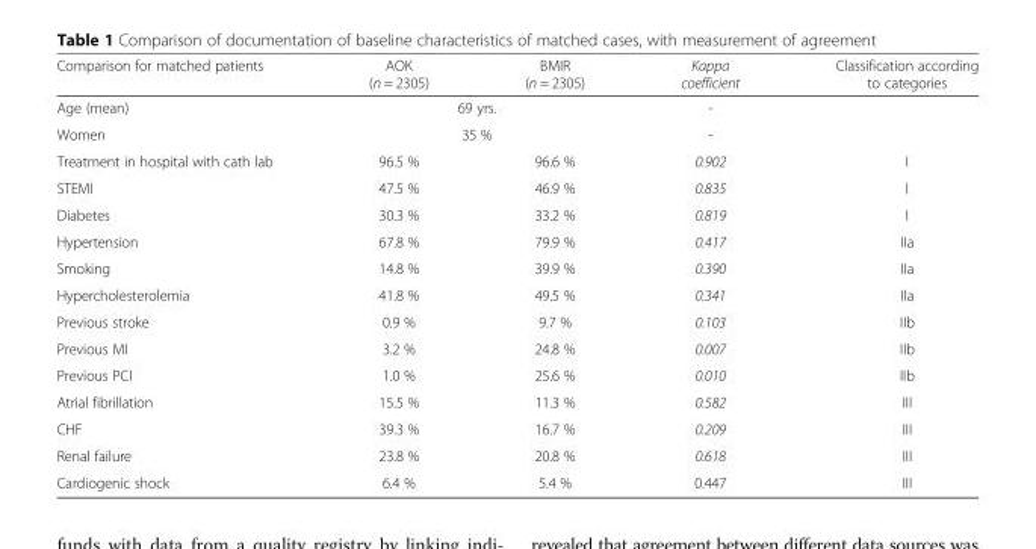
<table><thead><tr><td>Comparison for matched patients</td><td>AOK (n = 2305)</td><td>BMIR (n = 2305)</td><td>Kappa coefficient</td><td>Classification according to categories</td></tr></thead><tbody><tr><td>Age (mean)</td><td colspan="2">69 yrs.</td><td>-</td><td></td></tr><tr><td>Women</td><td colspan="2">35 %</td><td>-</td><td></td></tr><tr><td>Treatment in hospital with cath lab</td><td>96.5 %</td><td>96.6 %</td><td>0.902</td><td>I</td></tr><tr><td>STEMI</td><td>47.5 %</td><td>46.9 %</td><td>0.835</td><td>I</td></tr><tr><td>Diabetes</td><td>30.3 %</td><td>33.2 %</td><td>0.819</td><td>I</td></tr><tr><td>Hypertension</td><td>67.8 %</td><td>79.9 %</td><td>0.417</td><td>IIa</td></tr><tr><td>Smoking</td><td>14.8 %</td><td>39.9 %</td><td>0.390</td><td>IIa</td></tr><tr><td>Hypercholesterolemia</td><td>41.8 %</td><td>49.5 %</td><td>0.341</td><td>IIa</td></tr><tr><td>Previous stroke</td><td>0.9 %</td><td>9.7 %</td><td>0.103</td><td>IIb</td></tr><tr><td>Previous MI</td><td>3.2 %</td><td>24.8 %</td><td>0.007</td><td>IIb</td></tr><tr><td>Previous PCI</td><td>1.0 %</td><td>25.6 %</td><td>0.010</td><td>IIb</td></tr><tr><td>Atrial fibrillation</td><td>15.5 %</td><td>11.3 %</td><td>0.582</td><td>III</td></tr><tr><td>CHF</td><td>39.3 %</td><td>16.7 %</td><td>0.209</td><td>III</td></tr><tr><td>Renal failure</td><td>23.8 %</td><td>20.8 %</td><td>0.618</td><td>III</td></tr><tr><td>Cardiogenic shock</td><td>6.4 %</td><td>5.4 %</td><td>0.447</td><td>III</td></tr></tbody></table>